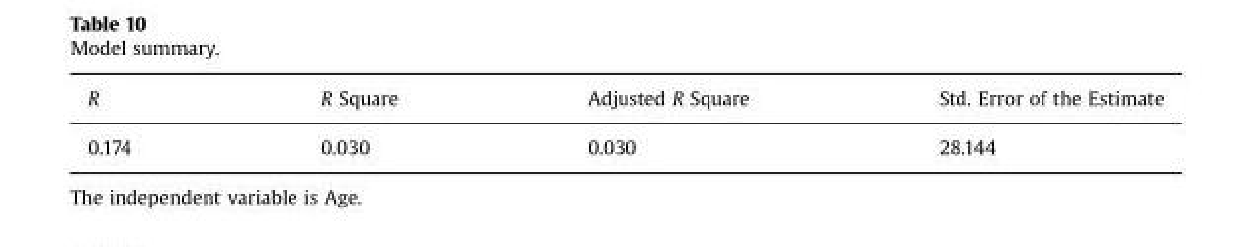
<table><thead><tr><td>R</td><td>R Square</td><td>Adjusted R Square</td><td>Std. Error of the Estimate</td></tr></thead><tbody><tr><td>0.174</td><td>0.030</td><td>0.030</td><td>28.144</td></tr></tbody></table>